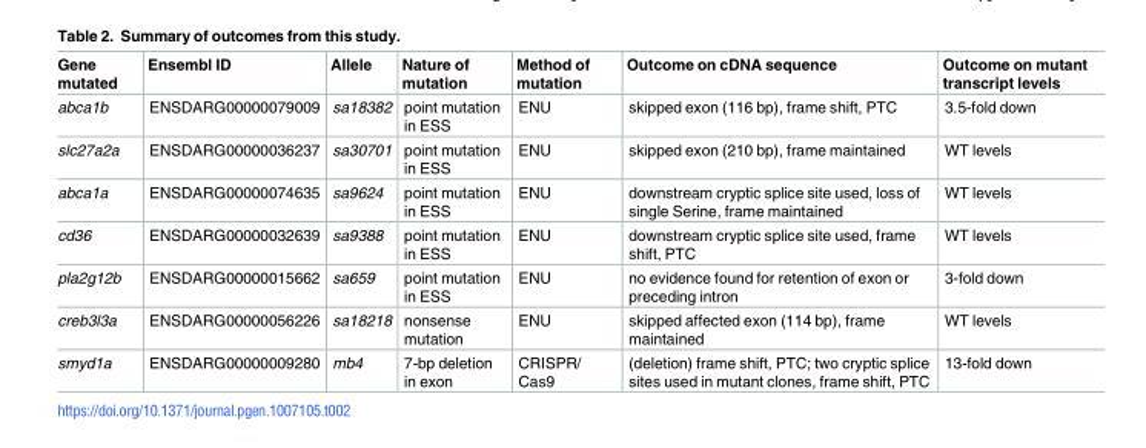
<table><thead><tr><td>Gene mutated</td><td>Ensembl ID</td><td>Allele</td><td>Nature of mutation</td><td>Method of mutation</td><td>Outcome on cDNA sequence</td><td>Outcome on mutant transcript levels</td></tr></thead><tbody><tr><td>abca1b</td><td>ENSDARG00000079009</td><td>sa18382</td><td>point mutation in ESS</td><td>ENU</td><td>skipped exon (116 bp), frame shift, PTC</td><td>3.5-fold down</td></tr><tr><td>slc27a2a</td><td>ENSDARG00000036237</td><td>sa30701</td><td>point mutation in ESS</td><td>ENU</td><td>skipped exon (210 bp), frame maintained</td><td>WT levels</td></tr><tr><td>abca1a</td><td>ENSDARG00000074635</td><td>sa9624</td><td>point mutation in ESS</td><td>ENU</td><td>downstream cryptic splice site used, loss of single Serine, frame maintained</td><td>WT levels</td></tr><tr><td>cd36</td><td>ENSDARG00000032639</td><td>sa9388</td><td>point mutation in ESS</td><td>ENU</td><td>downstream cryptic splice site used, frame shift, PTC</td><td>WT levels</td></tr><tr><td>pla2g12b</td><td>ENSDARG00000015662</td><td>sa659</td><td>point mutation in ESS</td><td>ENU</td><td>no evidence found for retention of exon or preceding intron</td><td>3-fold down</td></tr><tr><td>creb3l3a</td><td>ENSDARG00000056226</td><td>sa18218</td><td>nonsense mutation</td><td>ENU</td><td>skipped affected exon (114 bp), frame maintained</td><td>WT levels</td></tr><tr><td>smyd1a</td><td>ENSDARG00000009280</td><td>mb4</td><td>7-bp deletion in exon</td><td>CRISPR/ Cas9</td><td>(deletion) frame shift, PTC; two cryptic splice sites used in mutant clones, frame shift, PTC</td><td>13-fold down</td></tr></tbody></table>